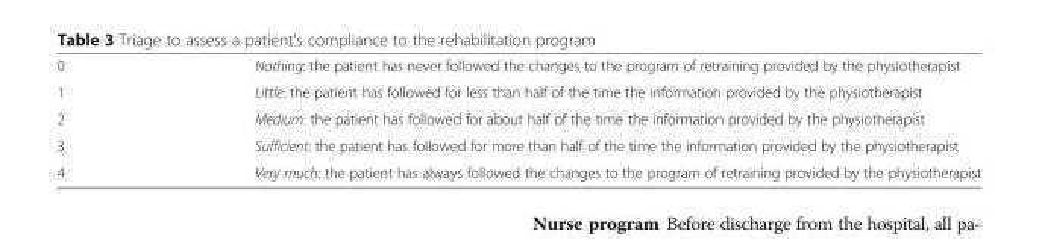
<table><tbody><tr><td>0</td><td>Nothing: the patient has never followed the changes to the program of retraining provided by the physiotherapist</td></tr><tr><td>1</td><td>Little: the patient has followed for less than half of the time the information provided by the physiotherapist</td></tr><tr><td>2</td><td>Medium: the patient has followed for about half of the time the information provided by the physiotherapist</td></tr><tr><td>3</td><td>Sufficient: the patient has followed for more than half of the time the information provided by the physiotherapist</td></tr><tr><td>4</td><td>Very much: the patient has always followed the changes to the program of retraining provided by the physiotherapist</td></tr></tbody></table>